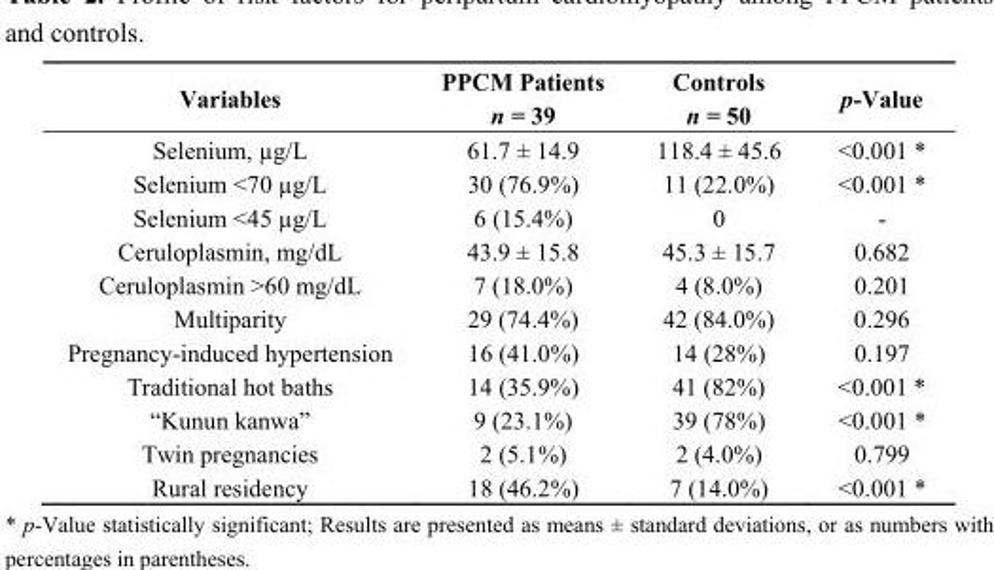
<table><thead><tr><td>Variables</td><td>PPCM Patients n = 39</td><td>Controls n = 50</td><td>p-Value</td></tr></thead><tbody><tr><td>Selenium, µg/L</td><td>61.7 ± 14.9</td><td>118.4 ± 45.6</td><td>&lt;0.001 *</td></tr><tr><td>Selenium &lt;70 µg/L</td><td>30 (76.9%)</td><td>11 (22.0%)</td><td>&lt;0.001 *</td></tr><tr><td>Selenium &lt;45 µg/L</td><td>6 (15.4%)</td><td>0</td><td>-</td></tr><tr><td>Ceruloplasmin, mg/dL</td><td>43.9 ± 15.8</td><td>45.3 ± 15.7</td><td>0.682</td></tr><tr><td>Ceruloplasmin &gt;60 mg/dL</td><td>7 (18.0%)</td><td>4 (8.0%)</td><td>0.201</td></tr><tr><td>Multiparity</td><td>29 (74.4%)</td><td>42 (84.0%)</td><td>0.296</td></tr><tr><td>Pregnancy-induced hypertension</td><td>16 (41.0%)</td><td>14 (28%)</td><td>0.197</td></tr><tr><td>Traditional hot baths</td><td>14 (35.9%)</td><td>41 (82%)</td><td>&lt;0.001 *</td></tr><tr><td>“Kunun kanwa”</td><td>9 (23.1%)</td><td>39 (78%)</td><td>&lt;0.001 *</td></tr><tr><td>Twin pregnancies</td><td>2 (5.1%)</td><td>2 (4.0%)</td><td>0.799</td></tr><tr><td>Rural residency</td><td>18 (46.2%)</td><td>7 (14.0%)</td><td>&lt;0.001 *</td></tr></tbody></table>